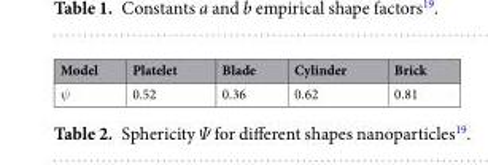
<table><thead><tr><td>Model</td><td>Platelet</td><td>Blade</td><td>Cylinder</td><td>Brick</td></tr></thead><tbody><tr><td>ψ</td><td>0.52</td><td>0.36</td><td>0.62</td><td>0.81</td></tr></tbody></table>